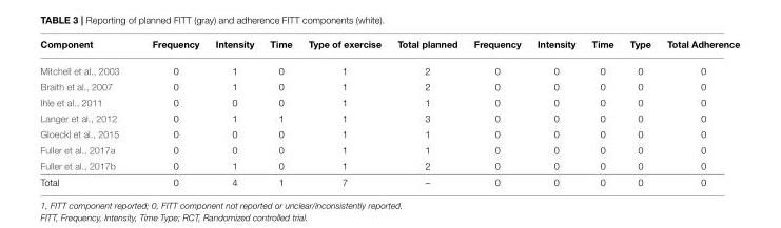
<table><thead><tr><td>Component</td><td>Frequency</td><td>Intensity</td><td>Time</td><td>Type of exercise</td><td>Total planned</td><td>Frequency</td><td>Intensity</td><td>Time</td><td>Type</td><td>Total Adherence</td></tr></thead><tbody><tr><td>Mitchell et al., 2003</td><td>0</td><td>1</td><td>0</td><td>1</td><td>2</td><td>0</td><td>0</td><td>0</td><td>0</td><td>0</td></tr><tr><td>Braith et al., 2007</td><td>0</td><td>1</td><td>0</td><td>1</td><td>2</td><td>0</td><td>0</td><td>0</td><td>0</td><td>0</td></tr><tr><td>Ihle et al., 2011</td><td>0</td><td>0</td><td>0</td><td>1</td><td>1</td><td>0</td><td>0</td><td>0</td><td>0</td><td>0</td></tr><tr><td>Langer et al., 2012</td><td>0</td><td>1</td><td>1</td><td>1</td><td>3</td><td>0</td><td>0</td><td>0</td><td>0</td><td>0</td></tr><tr><td>Gloeckl et al., 2015</td><td>0</td><td>0</td><td>0</td><td>1</td><td>1</td><td>0</td><td>0</td><td>0</td><td>0</td><td>0</td></tr><tr><td>Fuller et al., 2017a</td><td>0</td><td>0</td><td>0</td><td>1</td><td>1</td><td>0</td><td>0</td><td>0</td><td>0</td><td>0</td></tr><tr><td>Fuller et al., 2017b</td><td>0</td><td>1</td><td>0</td><td>1</td><td>2</td><td>0</td><td>0</td><td>0</td><td>0</td><td>0</td></tr><tr><td>Total</td><td>0</td><td>4</td><td>1</td><td>7</td><td>–</td><td>0</td><td>0</td><td>0</td><td>0</td><td>0</td></tr></tbody></table>